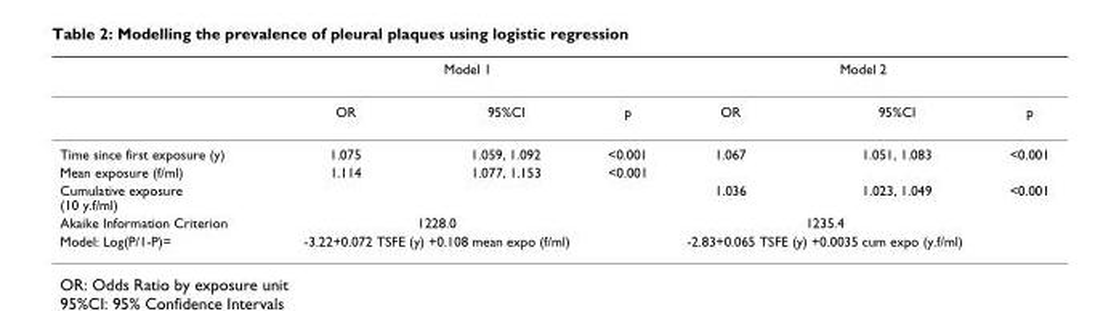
<table><thead><tr><td rowspan="2"></td><td colspan="3">Model 1</td><td colspan="3">Model 2</td></tr><tr><td>OR</td><td>95%CI</td><td>p</td><td>OR</td><td>95%CI</td><td>p</td></tr></thead><tbody><tr><td>Time since first exposure (y)</td><td>1.075</td><td>1.059, 1.092</td><td>&lt;0.001</td><td>1.067</td><td>1.051, 1.083</td><td>&lt;0.001</td></tr><tr><td>Mean exposure (f/ml)</td><td>1.114</td><td>1.077, 1.153</td><td>&lt;0.001</td><td></td><td></td><td></td></tr><tr><td>Cumulative exposure (10 y.f/ml)</td><td></td><td></td><td></td><td>1.036</td><td>1.023, 1.049</td><td>&lt;0.001</td></tr><tr><td>Akaike Information Criterion</td><td colspan="2">1228.0</td><td></td><td colspan="2">1235.4</td><td></td></tr><tr><td>Model: Log(P/1-P)=</td><td colspan="2">-3.22+0.072 TSFE (y) +0.108 mean expo (f/ml)</td><td></td><td colspan="2">-2.83+0.065 TSFE (y) +0.0035 cum expo (y.f/ml)</td><td></td></tr></tbody></table>